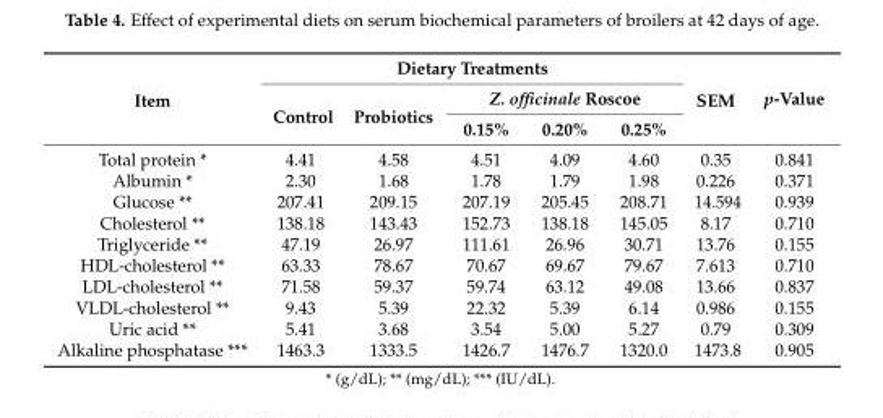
<table><thead><tr><td rowspan="3">Item</td><td colspan="5">Dietary Treatments</td><td rowspan="3">SEM</td><td rowspan="3">p-Value</td></tr><tr><td rowspan="2">Control</td><td rowspan="2">Probiotics</td><td colspan="3">Z. officinale Roscoe</td></tr><tr><td>0.15%</td><td>0.20%</td><td>0.25%</td></tr></thead><tbody><tr><td>Total protein *</td><td>4.41</td><td>4.58</td><td>4.51</td><td>4.09</td><td>4.60</td><td>0.35</td><td>0.841</td></tr><tr><td>Albumin *</td><td>2.30</td><td>1.68</td><td>1.78</td><td>1.79</td><td>1.98</td><td>0.226</td><td>0.371</td></tr><tr><td>Glucose **</td><td>207.41</td><td>209.15</td><td>207.19</td><td>205.45</td><td>208.71</td><td>14.594</td><td>0.939</td></tr><tr><td>Cholesterol **</td><td>138.18</td><td>143.43</td><td>152.73</td><td>138.18</td><td>145.05</td><td>8.17</td><td>0.710</td></tr><tr><td>Triglyceride **</td><td>47.19</td><td>26.97</td><td>111.61</td><td>26.96</td><td>30.71</td><td>13.76</td><td>0.155</td></tr><tr><td>HDL-cholesterol **</td><td>63.33</td><td>78.67</td><td>70.67</td><td>69.67</td><td>79.67</td><td>7.613</td><td>0.710</td></tr><tr><td>LDL-cholesterol **</td><td>71.58</td><td>59.37</td><td>59.74</td><td>63.12</td><td>49.08</td><td>13.66</td><td>0.837</td></tr><tr><td>VLDL-cholesterol **</td><td>9.43</td><td>5.39</td><td>22.32</td><td>5.39</td><td>6.14</td><td>0.986</td><td>0.155</td></tr><tr><td>Uric acid **</td><td>5.41</td><td>3.68</td><td>3.54</td><td>5.00</td><td>5.27</td><td>0.79</td><td>0.309</td></tr><tr><td>Alkaline phosphatase ***</td><td>1463.3</td><td>1333.5</td><td>1426.7</td><td>1476.7</td><td>1320.0</td><td>1473.8</td><td>0.905</td></tr></tbody></table>